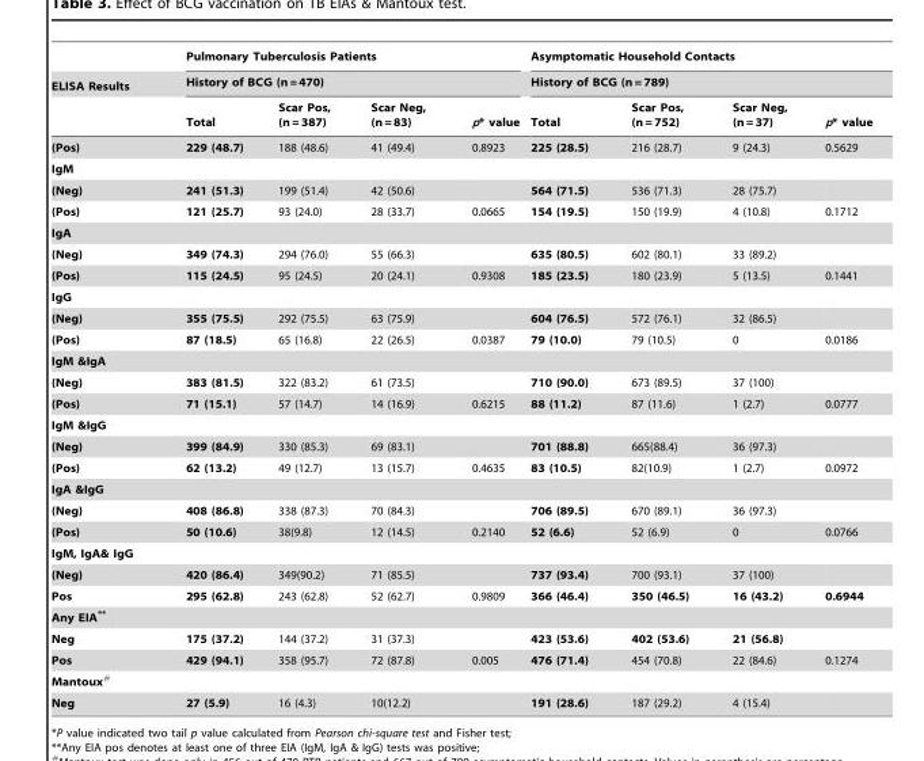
<table><thead><tr><td rowspan="3">ELISA Results</td><td rowspan="2" colspan="4">Pulmonary Tuberculosis Patients History of BCG (n = 470)</td><td rowspan="2" colspan="4">Asymptomatic Household Contacts History of BCG (n = 789)</td></tr><tr></tr><tr><td>Total</td><td>Scar Pos, (n = 387)</td><td>Scar Neg, (n = 83)</td><td>p* value</td><td>Total</td><td>Scar Pos, (n = 752)</td><td>Scar Neg, (n = 37)</td><td>p* value</td></tr></thead><tbody><tr><td>(Pos)</td><td>229 (48.7)</td><td>188 (48.6)</td><td>41 (49.4)</td><td>0.8923</td><td>225 (28.5)</td><td>216 (28.7)</td><td>9 (24.3)</td><td>0.5629</td></tr><tr><td colspan="9">IgM</td></tr><tr><td>(Neg)</td><td>241 (51.3)</td><td>199 (51.4)</td><td>42 (50.6)</td><td></td><td>564 (71.5)</td><td>536 (71.3)</td><td>28 (75.7)</td><td></td></tr><tr><td>(Pos)</td><td>121 (25.7)</td><td>93 (24.0)</td><td>28 (33.7)</td><td>0.0665</td><td>154 (19.5)</td><td>150 (19.9)</td><td>4 (10.8)</td><td>0.1712</td></tr><tr><td colspan="9">IgA</td></tr><tr><td>(Neg)</td><td>349 (74.3)</td><td>294 (76.0)</td><td>55 (66.3)</td><td></td><td>635 (80.5)</td><td>602 (80.1)</td><td>33 (89.2)</td><td></td></tr><tr><td>(Pos)</td><td>115 (24.5)</td><td>95 (24.5)</td><td>20 (24.1)</td><td>0.9308</td><td>185 (23.5)</td><td>180 (23.9)</td><td>5 (13.5)</td><td>0.1441</td></tr><tr><td colspan="9">IgG</td></tr><tr><td>(Neg)</td><td>355 (75.5)</td><td>292 (75.5)</td><td>63 (75.9)</td><td></td><td>604 (76.5)</td><td>572 (76.1)</td><td>32 (86.5)</td><td></td></tr><tr><td>(Pos)</td><td>87 (18.5)</td><td>65 (16.8)</td><td>22 (26.5)</td><td>0.0387</td><td>79 (10.0)</td><td>79 (10.5)</td><td>0</td><td>0.0186</td></tr><tr><td colspan="9">IgM &amp;IgA</td></tr><tr><td>(Neg)</td><td>383 (81.5)</td><td>322 (83.2)</td><td>61 (73.5)</td><td></td><td>710 (90.0)</td><td>673 (89.5)</td><td>37 (100)</td><td></td></tr><tr><td>(Pos)</td><td>71 (15.1)</td><td>57 (14.7)</td><td>14 (16.9)</td><td>0.6215</td><td>88 (11.2)</td><td>87 (11.6)</td><td>1 (2.7)</td><td>0.0777</td></tr><tr><td colspan="9">IgM &amp;IgG</td></tr><tr><td>(Neg)</td><td>399 (84.9)</td><td>330 (85.3)</td><td>69 (83.1)</td><td></td><td>701 (88.8)</td><td>665(88.4)</td><td>36 (97.3)</td><td></td></tr><tr><td>(Pos)</td><td>62 (13.2)</td><td>49 (12.7)</td><td>13 (15.7)</td><td>0.4635</td><td>83 (10.5)</td><td>82(10.9)</td><td>1 (2.7)</td><td>0.0972</td></tr><tr><td colspan="9">IgA &amp;IgG</td></tr><tr><td>(Neg)</td><td>408 (86.8)</td><td>338 (87.3)</td><td>70 (84.3)</td><td></td><td>706 (89.5)</td><td>670 (89.1)</td><td>36 (97.3)</td><td></td></tr><tr><td>(Pos)</td><td>50 (10.6)</td><td>38(9.8)</td><td>12 (14.5)</td><td>0.2140</td><td>52 (6.6)</td><td>52 (6.9)</td><td>0</td><td>0.0766</td></tr><tr><td colspan="9">IgM, IgA&amp; IgG</td></tr><tr><td>(Neg)</td><td>420 (86.4)</td><td>349(90.2)</td><td>71 (85.5)</td><td></td><td>737 (93.4)</td><td>700 (93.1)</td><td>37 (100)</td><td></td></tr><tr><td>Pos</td><td>295 (62.8)</td><td>243 (62.8)</td><td>52 (62.7)</td><td>0.9809</td><td>366 (46.4)</td><td>350 (46.5)</td><td>16 (43.2)</td><td>0.6944</td></tr><tr><td colspan="9">Any EIA**</td></tr><tr><td>Neg</td><td>175 (37.2)</td><td>144 (37.2)</td><td>31 (37.3)</td><td></td><td>423 (53.6)</td><td>402 (53.6)</td><td>21 (56.8)</td><td></td></tr><tr><td>Pos</td><td>429 (94.1)</td><td>358 (95.7)</td><td>72 (87.8)</td><td>0.005</td><td>476 (71.4)</td><td>454 (70.8)</td><td>22 (84.6)</td><td>0.1274</td></tr><tr><td colspan="9">Mantoux#</td></tr><tr><td>Neg</td><td>27 (5.9)</td><td>16 (4.3)</td><td>10(12.2)</td><td></td><td>191 (28.6)</td><td>187 (29.2)</td><td>4 (15.4)</td><td></td></tr></tbody></table>